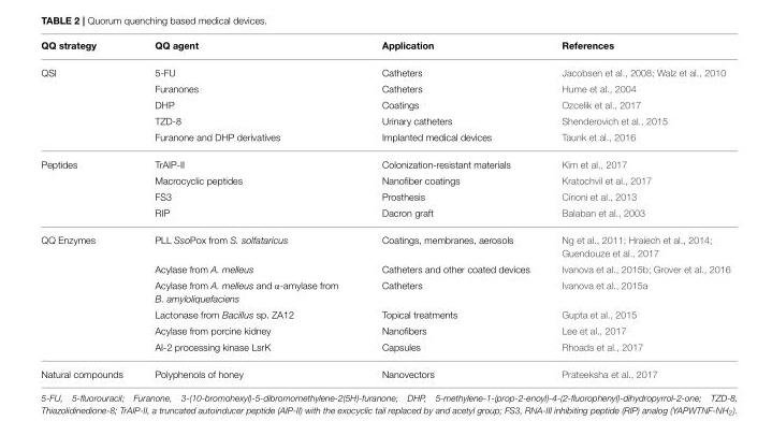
<table><thead><tr><td>QQ strategy</td><td>QQ agent</td><td>Application</td><td>References</td></tr></thead><tbody><tr><td rowspan="5">QSI</td><td>5-FU</td><td>Catheters</td><td>Jacobsen et al., 2008; Walz et al., 2010</td></tr><tr><td>Furanones</td><td>Catheters</td><td>Hume et al., 2004</td></tr><tr><td>DHP</td><td>Coatings</td><td>Ozcelik et al., 2017</td></tr><tr><td>TZD-8</td><td>Urinary catheters</td><td>Shenderovich et al., 2015</td></tr><tr><td>Furanone and DHP derivatives</td><td>Implanted medical devices</td><td>Taunk et al., 2016</td></tr><tr><td rowspan="4">Peptides</td><td>TrAIP-II</td><td>Colonization-resistant materials</td><td>Kim et al., 2017</td></tr><tr><td>Macrocyclic peptides</td><td>Nanofiber coatings</td><td>Kratochvil et al., 2017</td></tr><tr><td>FS3</td><td>Prosthesis</td><td>Cirioni et al., 2013</td></tr><tr><td>RIP</td><td>Dacron graft</td><td>Balaban et al., 2003</td></tr><tr><td rowspan="6">QQ Enzymes</td><td>PLL SsoPox from S. solfataricus</td><td>Coatings, membranes, aerosols</td><td>Ng et al., 2011; Hraiech et al., 2014; Guendouze et al., 2017</td></tr><tr><td>Acylase from A. melleus</td><td>Catheters and other coated devices</td><td>Ivanova et al., 2015b; Grover et al., 2016</td></tr><tr><td>Acylase from A. melleus and α-amylase from B. amyloliquefaciens</td><td>Catheters</td><td>Ivanova et al., 2015a</td></tr><tr><td>Lactonase from Bacillus sp. ZA12</td><td>Topical treatments</td><td>Gupta et al., 2015</td></tr><tr><td>Acylase from porcine kidney</td><td>Nanofibers</td><td>Lee et al., 2017</td></tr><tr><td>AI-2 processing kinase LsrK</td><td>Capsules</td><td>Rhoads et al., 2017</td></tr><tr><td>Natural compounds</td><td>Polyphenols of honey</td><td>Nanovectors</td><td>Prateeksha et al., 2017</td></tr></tbody></table>